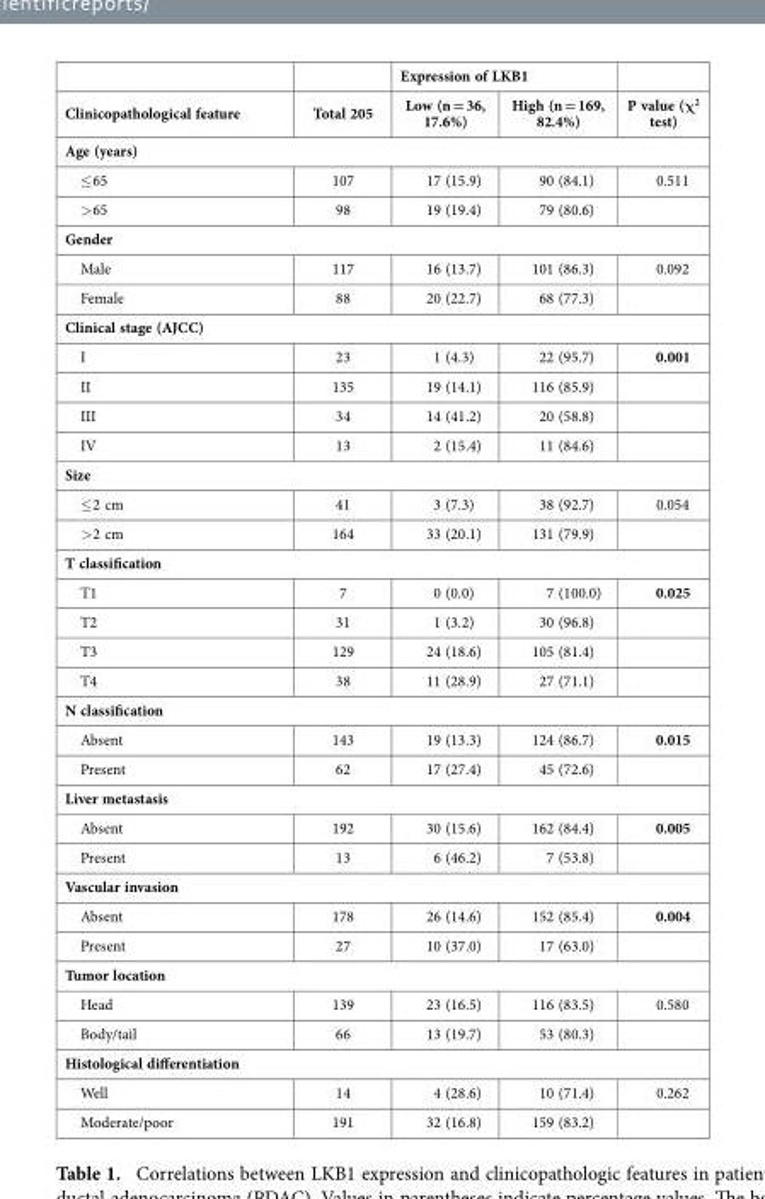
<table><thead><tr><td rowspan="2">Clinicopathological feature</td><td rowspan="2">Total 205</td><td colspan="2">Expression of LKB1</td><td rowspan="2">P value (χ<sup>2</sup> test)</td></tr><tr><td>Low (n = 36, 17.6%)</td><td>High (n = 169, 82.4%)</td></tr></thead><tbody><tr><td colspan="5">Age (years)</td></tr><tr><td>≤ 65</td><td>107</td><td>17 (15.9)</td><td>90 (84.1)</td><td>0.511</td></tr><tr><td>&gt; 65</td><td>98</td><td>19 (19.4)</td><td>79 (80.6)</td><td></td></tr><tr><td colspan="5">Gender</td></tr><tr><td>Male</td><td>117</td><td>16 (13.7)</td><td>101 (86.3)</td><td>0.092</td></tr><tr><td>Female</td><td>88</td><td>20 (22.7)</td><td>68 (77.3)</td><td></td></tr><tr><td colspan="5">Clinical stage (AJCC)</td></tr><tr><td>I</td><td>23</td><td>1 (4.3)</td><td>22 (95.7)</td><td>0.001</td></tr><tr><td>II</td><td>135</td><td>19 (14.1)</td><td>116 (85.9)</td><td></td></tr><tr><td>III</td><td>34</td><td>14 (41.2)</td><td>20 (58.8)</td><td></td></tr><tr><td>IV</td><td>13</td><td>2 (15.4)</td><td>11 (84.6)</td><td></td></tr><tr><td colspan="5">Size</td></tr><tr><td>≤ 2 cm</td><td>41</td><td>3 (7.3)</td><td>38 (92.7)</td><td>0.054</td></tr><tr><td>&gt; 2 cm</td><td>164</td><td>33 (20.1)</td><td>131 (79.9)</td><td></td></tr><tr><td colspan="5">T classification</td></tr><tr><td>T1</td><td>7</td><td>0 (0.0)</td><td>7 (100.0)</td><td>0.025</td></tr><tr><td>T2</td><td>31</td><td>1 (3.2)</td><td>30 (96.8)</td><td></td></tr><tr><td>T3</td><td>129</td><td>24 (18.6)</td><td>105 (81.4)</td><td></td></tr><tr><td>T4</td><td>38</td><td>11 (28.9)</td><td>27 (71.1)</td><td></td></tr><tr><td colspan="5">N classification</td></tr><tr><td>Absent</td><td>143</td><td>19 (13.3)</td><td>124 (86.7)</td><td>0.015</td></tr><tr><td>Present</td><td>62</td><td>17 (27.4)</td><td>45 (72.6)</td><td></td></tr><tr><td colspan="5">Liver metastasis</td></tr><tr><td>Absent</td><td>192</td><td>30 (15.6)</td><td>162 (84.4)</td><td>0.005</td></tr><tr><td>Present</td><td>13</td><td>6 (46.2)</td><td>7 (53.8)</td><td></td></tr><tr><td colspan="5">Vascular invasion</td></tr><tr><td>Absent</td><td>178</td><td>26 (14.6)</td><td>152 (85.4)</td><td>0.004</td></tr><tr><td>Present</td><td>27</td><td>10 (37.0)</td><td>17 (63.0)</td><td></td></tr><tr><td colspan="5">Tumor location</td></tr><tr><td>Head</td><td>139</td><td>23 (16.5)</td><td>116 (83.5)</td><td>0.580</td></tr><tr><td>Body/tail</td><td>66</td><td>13 (19.7)</td><td>53 (80.3)</td><td></td></tr><tr><td colspan="5">Histological differentiation</td></tr><tr><td>Well</td><td>14</td><td>4 (28.6)</td><td>10 (71.4)</td><td>0.262</td></tr><tr><td>Moderate/poor</td><td>191</td><td>32 (16.8)</td><td>159 (83.2)</td><td></td></tr></tbody></table>